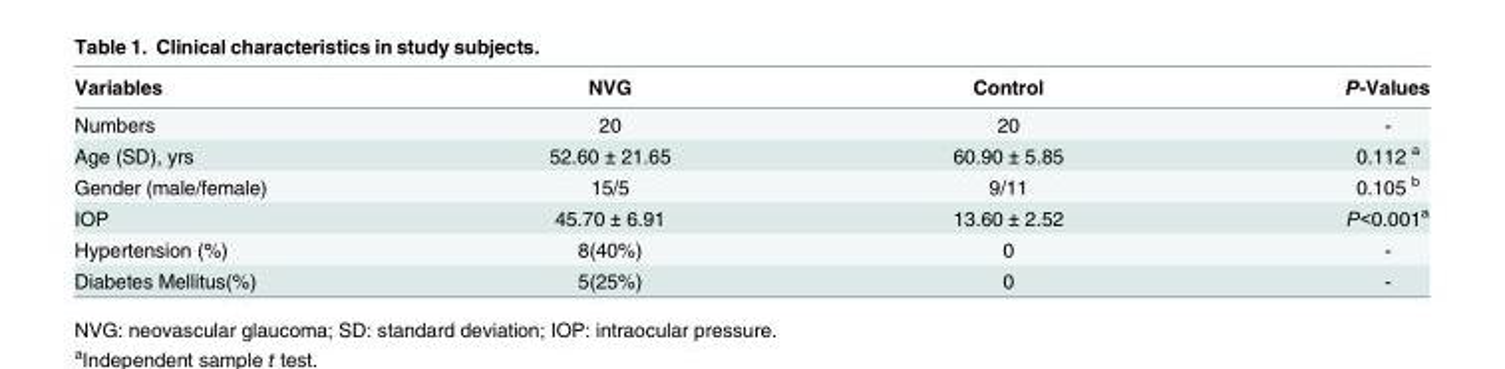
<table><thead><tr><td>Variables</td><td>NVG</td><td>Control</td><td>P-Values</td></tr></thead><tbody><tr><td>Numbers</td><td>20</td><td>20</td><td>-</td></tr><tr><td>Age (SD), yrs</td><td>52.60 ± 21.65</td><td>60.90 ± 5.85</td><td>0.112 <sup>a</sup></td></tr><tr><td>Gender (male/female)</td><td>15/5</td><td>9/11</td><td>0.105 <sup>b</sup></td></tr><tr><td>IOP</td><td>45.70 ± 6.91</td><td>13.60 ± 2.52</td><td>P&lt;0.001<sup>a</sup></td></tr><tr><td>Hypertension (%)</td><td>8(40%)</td><td>0</td><td>-</td></tr><tr><td>Diabetes Mellitus(%)</td><td>5(25%)</td><td>0</td><td>-</td></tr></tbody></table>